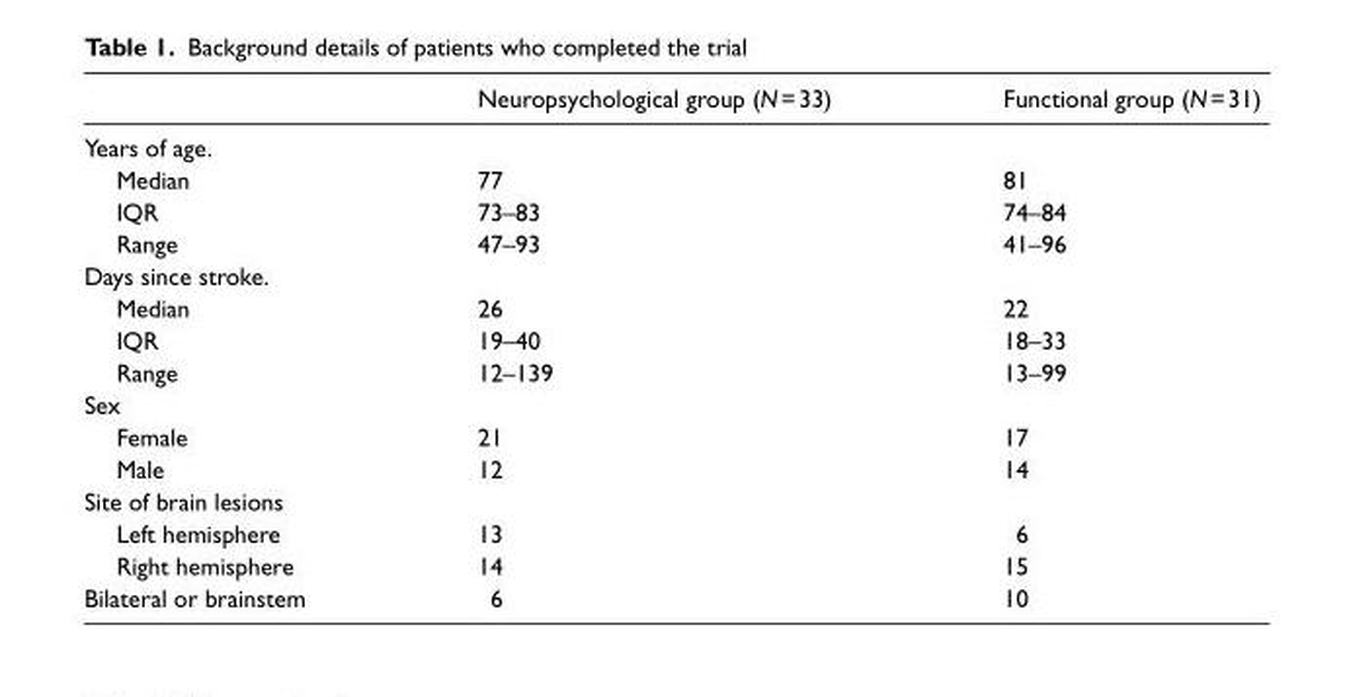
<table><thead><tr><td></td><td>Neuropsychological group (N = 33)</td><td>Functional group (N = 31)</td></tr></thead><tbody><tr><td colspan="3">Years of age.</td></tr><tr><td>Median</td><td>77</td><td>81</td></tr><tr><td>IQR</td><td>73–83</td><td>74–84</td></tr><tr><td>Range</td><td>47–93</td><td>41–96</td></tr><tr><td colspan="3">Days since stroke.</td></tr><tr><td>Median</td><td>26</td><td>22</td></tr><tr><td>IQR</td><td>19–40</td><td>18–33</td></tr><tr><td>Range</td><td>12–139</td><td>13–99</td></tr><tr><td colspan="3">Sex</td></tr><tr><td>Female</td><td>21</td><td>17</td></tr><tr><td>Male</td><td>12</td><td>14</td></tr><tr><td colspan="3">Site of brain lesions</td></tr><tr><td>Left hemisphere</td><td>13</td><td>6</td></tr><tr><td>Right hemisphere</td><td>14</td><td>15</td></tr><tr><td>Bilateral or brainstem</td><td>6</td><td>10</td></tr></tbody></table>